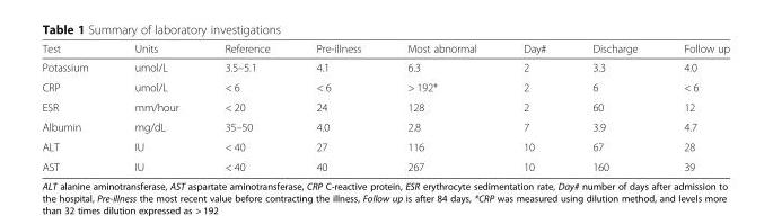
<table><thead><tr><td>Test</td><td>Units</td><td>Reference</td><td>Pre-illness</td><td>Most abnormal</td><td>Day#</td><td>Discharge</td><td>Follow up</td></tr></thead><tbody><tr><td>Potassium</td><td>umol/L</td><td>3.5–5.1</td><td>4.1</td><td>6.3</td><td>2</td><td>3.3</td><td>4.0</td></tr><tr><td>CRP</td><td>umol/L</td><td>&lt; 6</td><td>&lt; 6</td><td>&gt; 192*</td><td>2</td><td>6</td><td>&lt; 6</td></tr><tr><td>ESR</td><td>mm/hour</td><td>&lt; 20</td><td>24</td><td>128</td><td>2</td><td>60</td><td>12</td></tr><tr><td>Albumin</td><td>mg/dL</td><td>35–50</td><td>4.0</td><td>2.8</td><td>7</td><td>3.9</td><td>4.7</td></tr><tr><td>ALT</td><td>IU</td><td>&lt; 40</td><td>27</td><td>116</td><td>10</td><td>67</td><td>28</td></tr><tr><td>AST</td><td>IU</td><td>&lt; 40</td><td>40</td><td>267</td><td>10</td><td>160</td><td>39</td></tr></tbody></table>